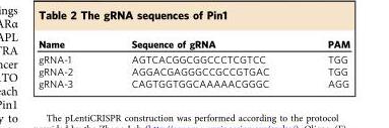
<table><thead><tr><td>Name</td><td>Sequence of gRNA</td><td>PAM</td></tr></thead><tbody><tr><td>gRNA-1</td><td>AGTCACGGCGGCCCTCGTCC</td><td>TGG</td></tr><tr><td>gRNA-2</td><td>AGGACGAGGGCCGCCGTGAC</td><td>TGG</td></tr><tr><td>gRNA-3</td><td>CAGTGGTGGCAAAAACGGGC</td><td>AGG</td></tr></tbody></table>